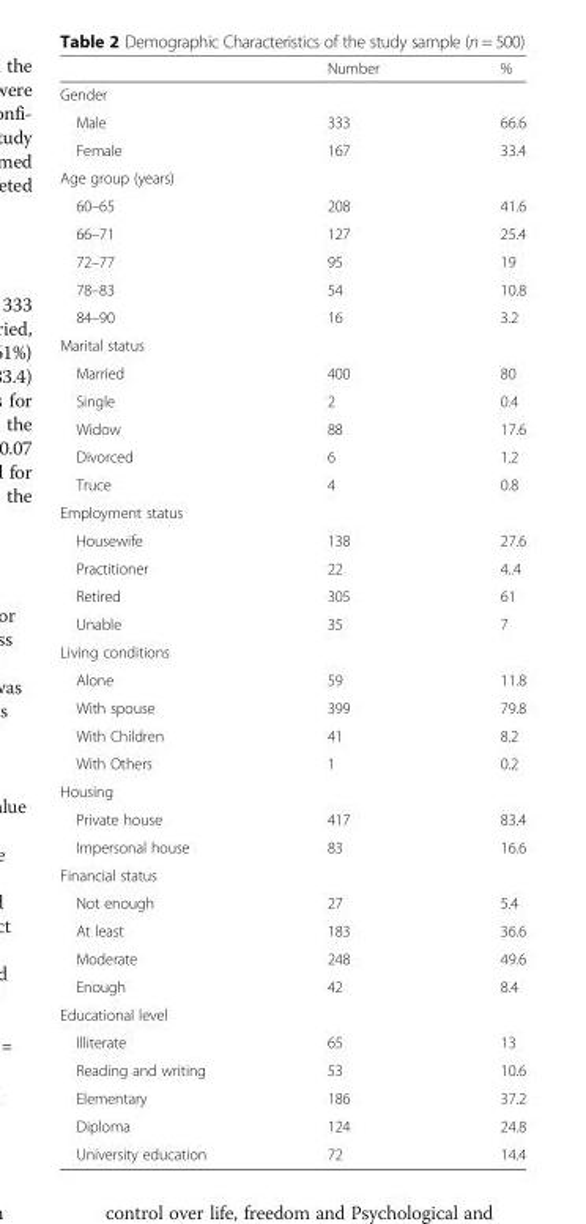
<table><thead><tr><td></td><td>Number</td><td>%</td></tr></thead><tbody><tr><td colspan="3">Gender</td></tr><tr><td>Male</td><td>333</td><td>66.6</td></tr><tr><td>Female</td><td>167</td><td>33.4</td></tr><tr><td colspan="3">Age group (years)</td></tr><tr><td>60–65</td><td>208</td><td>41.6</td></tr><tr><td>66–71</td><td>127</td><td>25.4</td></tr><tr><td>72–77</td><td>95</td><td>19</td></tr><tr><td>78–83</td><td>54</td><td>10.8</td></tr><tr><td>84–90</td><td>16</td><td>3.2</td></tr><tr><td colspan="3">Marital status</td></tr><tr><td>Married</td><td>400</td><td>80</td></tr><tr><td>Single</td><td>2</td><td>0.4</td></tr><tr><td>Widow</td><td>88</td><td>17.6</td></tr><tr><td>Divorced</td><td>6</td><td>1.2</td></tr><tr><td>Truce</td><td>4</td><td>0.8</td></tr><tr><td colspan="3">Employment status</td></tr><tr><td>Housewife</td><td>138</td><td>27.6</td></tr><tr><td>Practitioner</td><td>22</td><td>4..4</td></tr><tr><td>Retired</td><td>305</td><td>61</td></tr><tr><td>Unable</td><td>35</td><td>7</td></tr><tr><td colspan="3">Living conditions</td></tr><tr><td>Alone</td><td>59</td><td>11.8</td></tr><tr><td>With spouse</td><td>399</td><td>79.8</td></tr><tr><td>With Children</td><td>41</td><td>8.2</td></tr><tr><td>With Others</td><td>1</td><td>0.2</td></tr><tr><td colspan="3">Housing</td></tr><tr><td>Private house</td><td>417</td><td>83.4</td></tr><tr><td>Impersonal house</td><td>83</td><td>16.6</td></tr><tr><td colspan="3">Financial status</td></tr><tr><td>Not enough</td><td>27</td><td>5.4</td></tr><tr><td>At least</td><td>183</td><td>36.6</td></tr><tr><td>Moderate</td><td>248</td><td>49.6</td></tr><tr><td>Enough</td><td>42</td><td>8.4</td></tr><tr><td colspan="3">Educational level</td></tr><tr><td>Illiterate</td><td>65</td><td>13</td></tr><tr><td>Reading and writing</td><td>53</td><td>10.6</td></tr><tr><td>Elementary</td><td>186</td><td>37.2</td></tr><tr><td>Diploma</td><td>124</td><td>24.8</td></tr><tr><td>University education</td><td>72</td><td>14.4</td></tr></tbody></table>